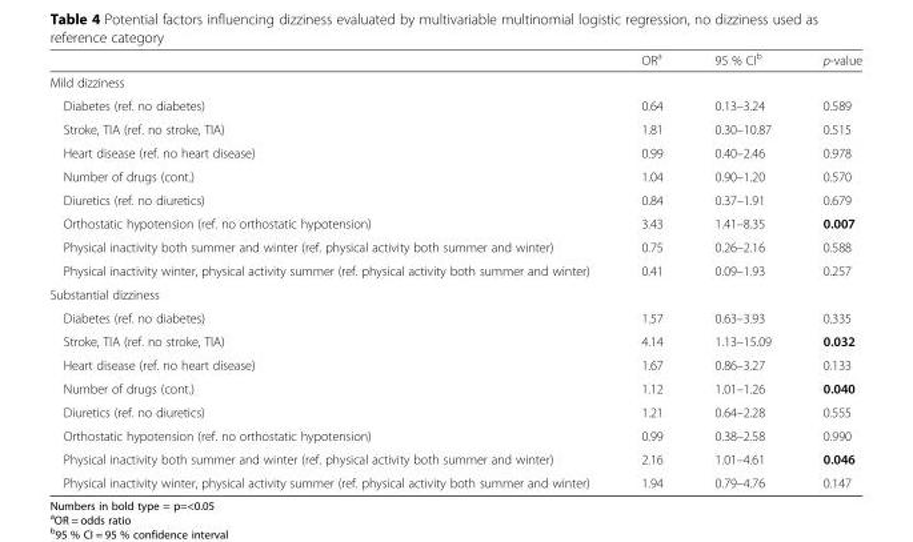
<table><thead><tr><td></td><td>OR<sup>a</sup></td><td>95 % CI<sup>b</sup></td><td>p-value</td></tr></thead><tbody><tr><td colspan="4">Mild dizziness</td></tr><tr><td>Diabetes (ref. no diabetes)</td><td>0.64</td><td>0.13–3.24</td><td>0.589</td></tr><tr><td>Stroke, TIA (ref. no stroke, TIA)</td><td>1.81</td><td>0.30–10.87</td><td>0.515</td></tr><tr><td>Heart disease (ref. no heart disease)</td><td>0.99</td><td>0.40–2.46</td><td>0.978</td></tr><tr><td>Number of drugs (cont.)</td><td>1.04</td><td>0.90–1.20</td><td>0.570</td></tr><tr><td>Diuretics (ref. no diuretics)</td><td>0.84</td><td>0.37–1.91</td><td>0.679</td></tr><tr><td>Orthostatic hypotension (ref. no orthostatic hypotension)</td><td>3.43</td><td>1.41–8.35</td><td>0.007</td></tr><tr><td>Physical inactivity both summer and winter (ref. physical activity both summer and winter)</td><td>0.75</td><td>0.26–2.16</td><td>0.588</td></tr><tr><td>Physical inactivity winter, physical activity summer (ref. physical activity both summer and winter)</td><td>0.41</td><td>0.09–1.93</td><td>0.257</td></tr><tr><td colspan="4">Substantial dizziness</td></tr><tr><td>Diabetes (ref. no diabetes)</td><td>1.57</td><td>0.63–3.93</td><td>0.335</td></tr><tr><td>Stroke, TIA (ref. no stroke, TIA)</td><td>4.14</td><td>1.13–15.09</td><td>0.032</td></tr><tr><td>Heart disease (ref. no heart disease)</td><td>1.67</td><td>0.86–3.27</td><td>0.133</td></tr><tr><td>Number of drugs (cont.)</td><td>1.12</td><td>1.01–1.26</td><td>0.040</td></tr><tr><td>Diuretics (ref. no diuretics)</td><td>1.21</td><td>0.64–2.28</td><td>0.555</td></tr><tr><td>Orthostatic hypotension (ref. no orthostatic hypotension)</td><td>0.99</td><td>0.38–2.58</td><td>0.990</td></tr><tr><td>Physical inactivity both summer and winter (ref. physical activity both summer and winter)</td><td>2.16</td><td>1.01–4.61</td><td>0.046</td></tr><tr><td>Physical inactivity winter, physical activity summer (ref. physical activity both summer and winter)</td><td>1.94</td><td>0.79–4.76</td><td>0.147</td></tr></tbody></table>